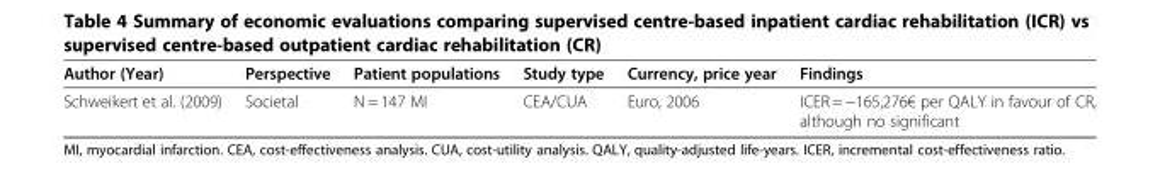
<table><thead><tr><td>Author (Year)</td><td>Perspective</td><td>Patient populations</td><td>Study type</td><td>Currency, price year</td><td>Findings</td></tr></thead><tbody><tr><td>Schweikert et al. (2009)</td><td>Societal</td><td>N = 147 MI</td><td>CEA/CUA</td><td>Euro, 2006</td><td>ICER = −165,276€ per QALY in favour of CR, although no significant</td></tr></tbody></table>